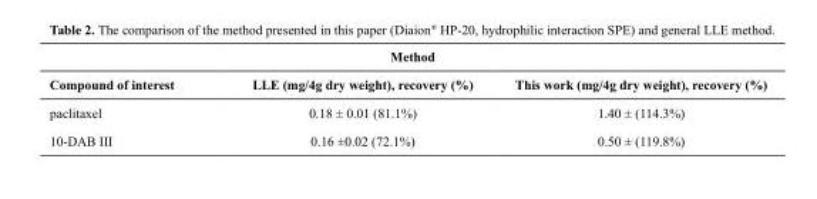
<table><thead><tr><td colspan="3">Method</td></tr><tr><td>Compound of interest</td><td>LLE (mg/4g dry weight), recovery (%)</td><td>This work (mg/4g dry weight), recovery (%)</td></tr></thead><tbody><tr><td>paclitaxel</td><td>0.18 ± 0.01 (81.1%)</td><td>1.40 ± (114.3%)</td></tr><tr><td>10-DAB III</td><td>0.16 ±0.02 (72.1%)</td><td>0.50 ± (119.8%)</td></tr></tbody></table>